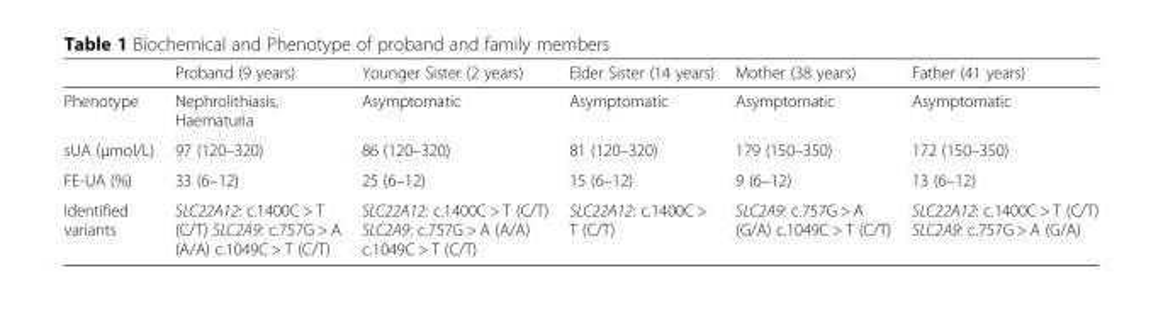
<table><thead><tr><td></td><td>Proband (9 years)</td><td>Younger Sister (2 years)</td><td>Elder Sister (14 years)</td><td>Mother (38 years)</td><td>Father (41 years)</td></tr></thead><tbody><tr><td>Phenotype</td><td>Nephrolithiasis‚ Haematuria</td><td>Asymptomatic</td><td>Asymptomatic</td><td>Asymptomatic</td><td>Asymptomatic</td></tr><tr><td>sUA (μmol/L)</td><td>97 (120–320)</td><td>86 (120–320)</td><td>81 (120–320)</td><td>179 (150–350)</td><td>172 (150–350)</td></tr><tr><td>FE-UA (%)</td><td>33 (6–12)</td><td>25 (6–12)</td><td>15 (6–12)</td><td>9 (6–12)</td><td>13 (6–12)</td></tr><tr><td>Identified variants</td><td>SLC22A12: c.1400C &gt; T (C/T) SLC2A9: c.757G &gt; A (A/A) c.1049C &gt; T (C/T)</td><td>SLC22A12: c.1400C &gt; T (C/T) SLC2A9: c.757G &gt; A (A/A) c.1049C &gt; T (C/T)</td><td>SLC22A12: c.1400C &gt; T (C/T)</td><td>SLC2A9: c.757G &gt; A (G/A) c.1049C &gt; T (C/T)</td><td>SLC22A12: c.1400C &gt; T (C/T) SLC2A9: c.757G &gt; A (G/A)</td></tr></tbody></table>